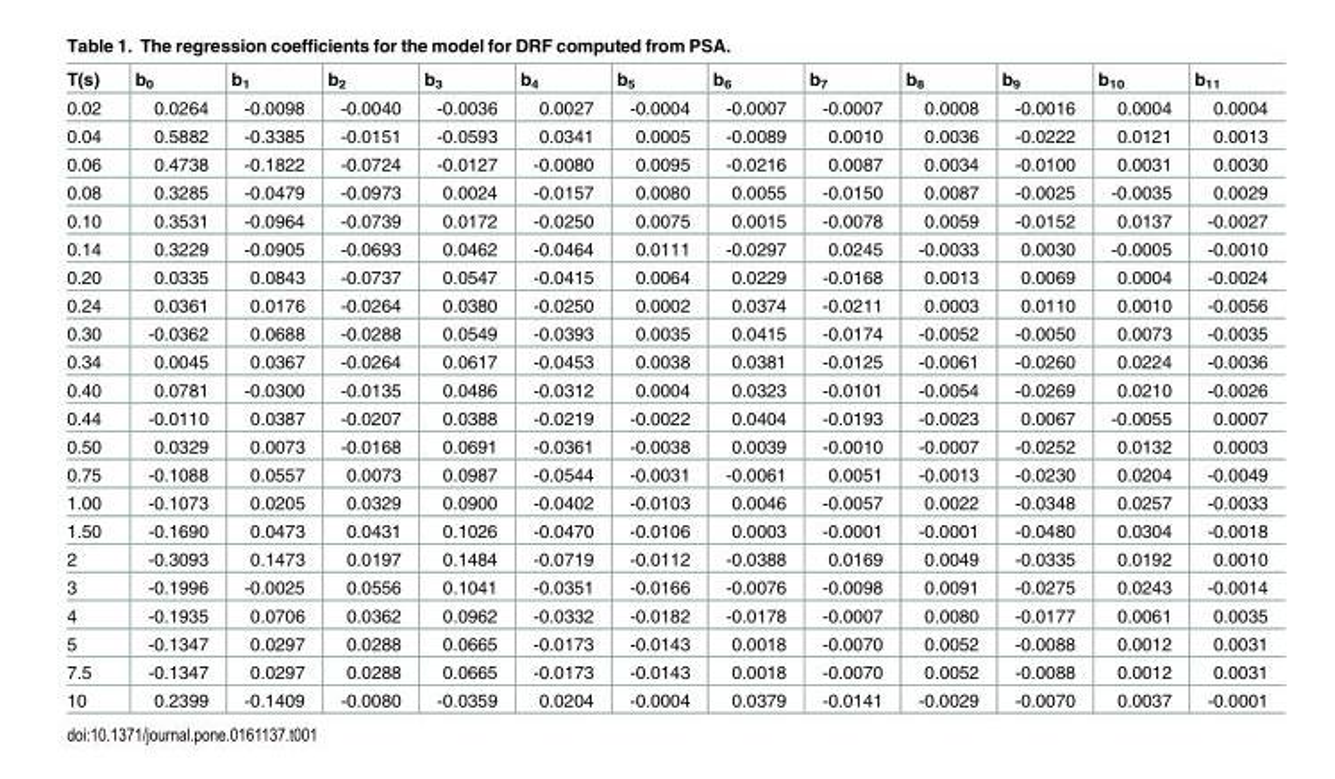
<table><thead><tr><td>T(s)</td><td>b<sub>0</sub></td><td>b<sub>1</sub></td><td>b<sub>2</sub></td><td>b<sub>3</sub></td><td>b<sub>4</sub></td><td>b<sub>5</sub></td><td>b<sub>6</sub></td><td>b<sub>7</sub></td><td>b<sub>8</sub></td><td>b<sub>9</sub></td><td>b<sub>10</sub></td><td>b<sub>11</sub></td></tr></thead><tbody><tr><td>0.02</td><td>0.0264</td><td>-0.0098</td><td>-0.0040</td><td>-0.0036</td><td>0.0027</td><td>-0.0004</td><td>-0.0007</td><td>-0.0007</td><td>0.0008</td><td>-0.0016</td><td>0.0004</td><td>0.0004</td></tr><tr><td>0.04</td><td>0.5882</td><td>-0.3385</td><td>-0.0151</td><td>-0.0593</td><td>0.0341</td><td>0.0005</td><td>-0.0089</td><td>0.0010</td><td>0.0036</td><td>-0.0222</td><td>0.0121</td><td>0.0013</td></tr><tr><td>0.06</td><td>0.4738</td><td>-0.1822</td><td>-0.0724</td><td>-0.0127</td><td>-0.0080</td><td>0.0095</td><td>-0.0216</td><td>0.0087</td><td>0.0034</td><td>-0.0100</td><td>0.0031</td><td>0.0030</td></tr><tr><td>0.08</td><td>0.3285</td><td>-0.0479</td><td>-0.0973</td><td>0.0024</td><td>-0.0157</td><td>0.0080</td><td>0.0055</td><td>-0.0150</td><td>0.0087</td><td>-0.0025</td><td>-0.0035</td><td>0.0029</td></tr><tr><td>0.10</td><td>0.3531</td><td>-0.0964</td><td>-0.0739</td><td>0.0172</td><td>-0.0250</td><td>0.0075</td><td>0.0015</td><td>-0.0078</td><td>0.0059</td><td>-0.0152</td><td>0.0137</td><td>-0.0027</td></tr><tr><td>0.14</td><td>0.3229</td><td>-0.0905</td><td>-0.0693</td><td>0.0462</td><td>-0.0464</td><td>0.0111</td><td>-0.0297</td><td>0.0245</td><td>-0.0033</td><td>0.0030</td><td>-0.0005</td><td>-0.0010</td></tr><tr><td>0.20</td><td>0.0335</td><td>0.0843</td><td>-0.0737</td><td>0.0547</td><td>-0.0415</td><td>0.0064</td><td>0.0229</td><td>-0.0168</td><td>0.0013</td><td>0.0069</td><td>0.0004</td><td>-0.0024</td></tr><tr><td>0.24</td><td>0.0361</td><td>0.0176</td><td>-0.0264</td><td>0.0380</td><td>-0.0250</td><td>0.0002</td><td>0.0374</td><td>-0.0211</td><td>0.0003</td><td>0.0110</td><td>0.0010</td><td>-0.0056</td></tr><tr><td>0.30</td><td>-0.0362</td><td>0.0688</td><td>-0.0288</td><td>0.0549</td><td>-0.0393</td><td>0.0035</td><td>0.0415</td><td>-0.0174</td><td>-0.0052</td><td>-0.0050</td><td>0.0073</td><td>-0.0035</td></tr><tr><td>0.34</td><td>0.0045</td><td>0.0367</td><td>-0.0264</td><td>0.0617</td><td>-0.0453</td><td>0.0038</td><td>0.0381</td><td>-0.0125</td><td>-0.0061</td><td>-0.0260</td><td>0.0224</td><td>-0.0036</td></tr><tr><td>0.40</td><td>0.0781</td><td>-0.0300</td><td>-0.0135</td><td>0.0486</td><td>-0.0312</td><td>0.0004</td><td>0.0323</td><td>-0.0101</td><td>-0.0054</td><td>-0.0269</td><td>0.0210</td><td>-0.0026</td></tr><tr><td>0.44</td><td>-0.0110</td><td>0.0387</td><td>-0.0207</td><td>0.0388</td><td>-0.0219</td><td>-0.0022</td><td>0.0404</td><td>-0.0193</td><td>-0.0023</td><td>0.0067</td><td>-0.0055</td><td>0.0007</td></tr><tr><td>0.50</td><td>0.0329</td><td>0.0073</td><td>-0.0168</td><td>0.0691</td><td>-0.0361</td><td>-0.0038</td><td>0.0039</td><td>-0.0010</td><td>-0.0007</td><td>-0.0252</td><td>0.0132</td><td>0.0003</td></tr><tr><td>0.75</td><td>-0.1088</td><td>0.0557</td><td>0.0073</td><td>0.0987</td><td>-0.0544</td><td>-0.0031</td><td>-0.0061</td><td>0.0051</td><td>-0.0013</td><td>-0.0230</td><td>0.0204</td><td>-0.0049</td></tr><tr><td>1.00</td><td>-0.1073</td><td>0.0205</td><td>0.0329</td><td>0.0900</td><td>-0.0402</td><td>-0.0103</td><td>0.0046</td><td>-0.0057</td><td>0.0022</td><td>-0.0348</td><td>0.0257</td><td>-0.0033</td></tr><tr><td>1.50</td><td>-0.1690</td><td>0.0473</td><td>0.0431</td><td>0.1026</td><td>-0.0470</td><td>-0.0106</td><td>0.0003</td><td>-0.0001</td><td>-0.0001</td><td>-0.0480</td><td>0.0304</td><td>-0.0018</td></tr><tr><td>2</td><td>-0.3093</td><td>0.1473</td><td>0.0197</td><td>0.1484</td><td>-0.0719</td><td>-0.0112</td><td>-0.0388</td><td>0.0169</td><td>0.0049</td><td>-0.0335</td><td>0.0192</td><td>0.0010</td></tr><tr><td>3</td><td>-0.1996</td><td>-0.0025</td><td>0.0556</td><td>0.1041</td><td>-0.0351</td><td>-0.0166</td><td>-0.0076</td><td>-0.0098</td><td>0.0091</td><td>-0.0275</td><td>0.0243</td><td>-0.0014</td></tr><tr><td>4</td><td>-0.1935</td><td>0.0706</td><td>0.0362</td><td>0.0962</td><td>-0.0332</td><td>-0.0182</td><td>-0.0178</td><td>-0.0007</td><td>0.0080</td><td>-0.0177</td><td>0.0061</td><td>0.0035</td></tr><tr><td>5</td><td>-0.1347</td><td>0.0297</td><td>0.0288</td><td>0.0665</td><td>-0.0173</td><td>-0.0143</td><td>0.0018</td><td>-0.0070</td><td>0.0052</td><td>-0.0088</td><td>0.0012</td><td>0.0031</td></tr><tr><td>7.5</td><td>-0.1347</td><td>0.0297</td><td>0.0288</td><td>0.0665</td><td>-0.0173</td><td>-0.0143</td><td>0.0018</td><td>-0.0070</td><td>0.0052</td><td>-0.0088</td><td>0.0012</td><td>0.0031</td></tr><tr><td>10</td><td>0.2399</td><td>-0.1409</td><td>-0.0080</td><td>-0.0359</td><td>0.0204</td><td>-0.0004</td><td>0.0379</td><td>-0.0141</td><td>-0.0029</td><td>-0.0070</td><td>0.0037</td><td>-0.0001</td></tr></tbody></table>